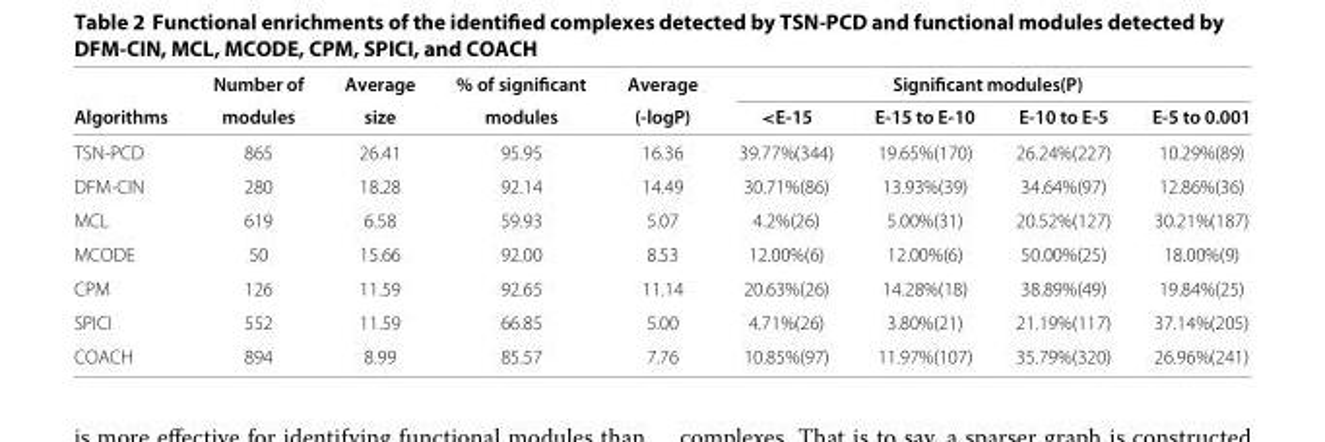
<table><thead><tr><td rowspan="2">Algorithms</td><td rowspan="2">Number of modules</td><td rowspan="2">Average size</td><td rowspan="2">% of significant modules</td><td rowspan="2">Average (-logP)</td><td colspan="4">Significant modules(P)</td></tr><tr><td>&lt;E-15</td><td>E-15 to E-10</td><td>E-10 to E-5</td><td>E-5 to 0.001</td></tr></thead><tbody><tr><td>TSN-PCD</td><td>865</td><td>26.41</td><td>95.95</td><td>16.36</td><td>39.77%(344)</td><td>19.65%(170)</td><td>26.24%(227)</td><td>10.29%(89)</td></tr><tr><td>DFM-CIN</td><td>280</td><td>18.28</td><td>92.14</td><td>14.49</td><td>30.71%(86)</td><td>13.93%(39)</td><td>34.64%(97)</td><td>12.86%(36)</td></tr><tr><td>MCL</td><td>619</td><td>6.58</td><td>59.93</td><td>5.07</td><td>4.2%(26)</td><td>5.00%(31)</td><td>20.52%(127)</td><td>30.21%(187)</td></tr><tr><td>MCODE</td><td>50</td><td>15.66</td><td>92.00</td><td>8.53</td><td>12.00%(6)</td><td>12.00%(6)</td><td>50.00%(25)</td><td>18.00%(9)</td></tr><tr><td>CPM</td><td>126</td><td>11.59</td><td>92.65</td><td>11.14</td><td>20.63%(26)</td><td>14.28%(18)</td><td>38.89%(49)</td><td>19.84%(25)</td></tr><tr><td>SPICI</td><td>552</td><td>11.59</td><td>66.85</td><td>5.00</td><td>4.71%(26)</td><td>3.80%(21)</td><td>21.19%(117)</td><td>37.14%(205)</td></tr><tr><td>COACH</td><td>894</td><td>8.99</td><td>85.57</td><td>7.76</td><td>10.85%(97)</td><td>11.97%(107)</td><td>35.79%(320)</td><td>26.96%(241)</td></tr></tbody></table>